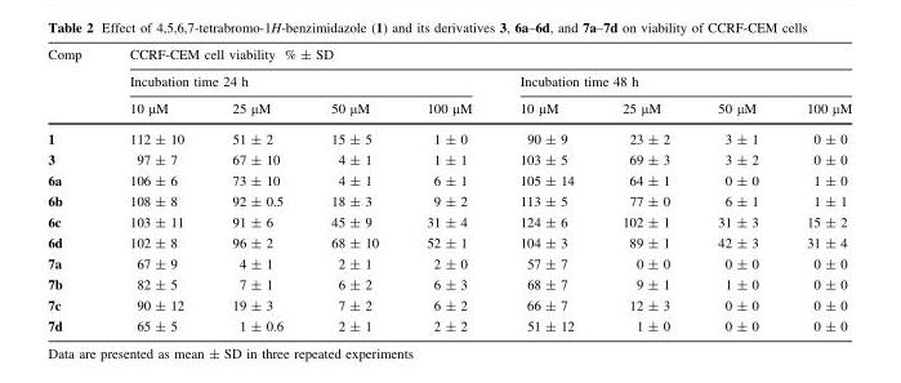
<table><thead><tr><td rowspan="3">Comp</td><td colspan="8">CCRF-CEM cell viability % ± SD</td></tr><tr><td colspan="4">Incubation time 24 h</td><td colspan="4">Incubation time 48 h</td></tr><tr><td>10 μM</td><td>25 μM</td><td>50 μM</td><td>100 μM</td><td>10 μM</td><td>25 μM</td><td>50 μM</td><td>100 μM</td></tr></thead><tbody><tr><td>1</td><td>112 ± 10</td><td>51 ± 2</td><td>15 ± 5</td><td>1 ± 0</td><td>90 ± 9</td><td>23 ± 2</td><td>3 ± 1</td><td>0 ± 0</td></tr><tr><td>3</td><td>97 ± 7</td><td>67 ± 10</td><td>4 ± 1</td><td>1 ± 1</td><td>103 ± 5</td><td>69 ± 3</td><td>3 ± 2</td><td>0 ± 0</td></tr><tr><td>6a</td><td>106 ± 6</td><td>73 ± 10</td><td>4 ± 1</td><td>6 ± 1</td><td>105 ± 14</td><td>64 ± 1</td><td>0 ± 0</td><td>1 ± 0</td></tr><tr><td>6b</td><td>108 ± 8</td><td>92 ± 0.5</td><td>18 ± 3</td><td>9 ± 2</td><td>113 ± 5</td><td>77 ± 0</td><td>6 ± 1</td><td>1 ± 1</td></tr><tr><td>6c</td><td>103 ± 11</td><td>91 ± 6</td><td>45 ± 9</td><td>31 ± 4</td><td>124 ± 6</td><td>102 ± 1</td><td>31 ± 3</td><td>15 ± 2</td></tr><tr><td>6d</td><td>102 ± 8</td><td>96 ± 2</td><td>68 ± 10</td><td>52 ± 1</td><td>104 ± 3</td><td>89 ± 1</td><td>42 ± 3</td><td>31 ± 4</td></tr><tr><td>7a</td><td>67 ± 9</td><td>4 ± 1</td><td>2 ± 1</td><td>2 ± 0</td><td>57 ± 7</td><td>0 ± 0</td><td>0 ± 0</td><td>0 ± 0</td></tr><tr><td>7b</td><td>82 ± 5</td><td>7 ± 1</td><td>6 ± 2</td><td>6 ± 3</td><td>68 ± 7</td><td>9 ± 1</td><td>1 ± 0</td><td>0 ± 0</td></tr><tr><td>7c</td><td>90 ± 12</td><td>19 ± 3</td><td>7 ± 2</td><td>6 ± 2</td><td>66 ± 7</td><td>12 ± 3</td><td>0 ± 0</td><td>0 ± 0</td></tr><tr><td>7d</td><td>65 ± 5</td><td>1 ± 0.6</td><td>2 ± 1</td><td>2 ± 2</td><td>51 ± 12</td><td>1 ± 0</td><td>0 ± 0</td><td>0 ± 0</td></tr></tbody></table>